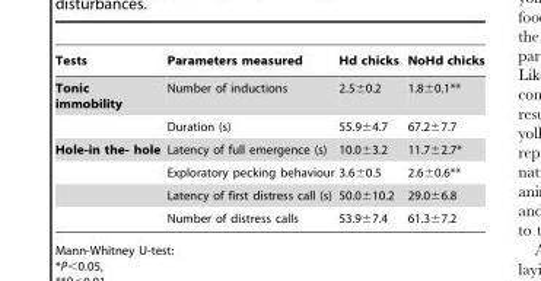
<table><thead><tr><td>Tests</td><td>Parameters measured</td><td>Hd chicks</td><td>NoHd chicks</td></tr></thead><tbody><tr><td rowspan="2">Tonic immobility</td><td>Number of inductions</td><td>2.5±0.2</td><td>1.8±0.1**</td></tr><tr><td>Duration (s)</td><td>55.9±4.7</td><td>67.2±7.7</td></tr><tr><td rowspan="4">Hole-in the- hole</td><td>Latency of full emergence (s)</td><td>10.0±3.2</td><td>11.7±2.7*</td></tr><tr><td>Exploratory pecking behaviour</td><td>3.6±0.5</td><td>2.6±0.6**</td></tr><tr><td>Latency of first distress call (s)</td><td>50.0±10.2</td><td>29.0±6.8</td></tr><tr><td>Number of distress calls</td><td>53.9±7.4</td><td>61.3±7.2</td></tr></tbody></table>